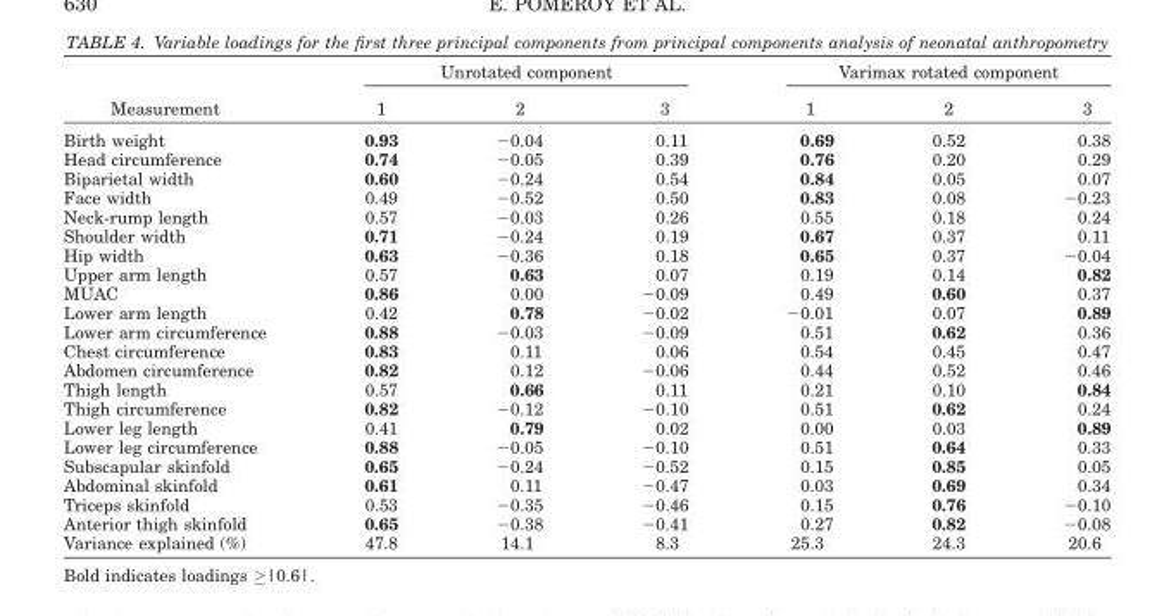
<table><thead><tr><td rowspan="2">Measurement</td><td colspan="3">Unrotated component</td><td colspan="3">Varimax rotated component</td></tr><tr><td>1</td><td>2</td><td>3</td><td>1</td><td>2</td><td>3</td></tr></thead><tbody><tr><td>Birth weight</td><td>0.93</td><td>−0.04</td><td>0.11</td><td>0.69</td><td>0.52</td><td>0.38</td></tr><tr><td>Head circumference</td><td>0.74</td><td>−0.05</td><td>0.39</td><td>0.76</td><td>0.20</td><td>0.29</td></tr><tr><td>Biparietal width</td><td>0.60</td><td>−0.24</td><td>0.54</td><td>0.84</td><td>0.05</td><td>0.07</td></tr><tr><td>Face width</td><td>0.49</td><td>−0.52</td><td>0.50</td><td>0.83</td><td>0.08</td><td>−0.23</td></tr><tr><td>Neck-rump length</td><td>0.57</td><td>−0.03</td><td>0.26</td><td>0.55</td><td>0.18</td><td>0.24</td></tr><tr><td>Shoulder width</td><td>0.71</td><td>−0.24</td><td>0.19</td><td>0.67</td><td>0.37</td><td>0.11</td></tr><tr><td>Hip width</td><td>0.63</td><td>−0.36</td><td>0.18</td><td>0.65</td><td>0.37</td><td>−0.04</td></tr><tr><td>Upper arm length</td><td>0.57</td><td>0.63</td><td>0.07</td><td>0.19</td><td>0.14</td><td>0.82</td></tr><tr><td>MUAC</td><td>0.86</td><td>0.00</td><td>−0.09</td><td>0.49</td><td>0.60</td><td>0.37</td></tr><tr><td>Lower arm length</td><td>0.42</td><td>0.78</td><td>−0.02</td><td>−0.01</td><td>0.07</td><td>0.89</td></tr><tr><td>Lower arm circumference</td><td>0.88</td><td>−0.03</td><td>−0.09</td><td>0.51</td><td>0.62</td><td>0.36</td></tr><tr><td>Chest circumference</td><td>0.83</td><td>0.11</td><td>0.06</td><td>0.54</td><td>0.45</td><td>0.47</td></tr><tr><td>Abdomen circumference</td><td>0.82</td><td>0.12</td><td>−0.06</td><td>0.44</td><td>0.52</td><td>0.46</td></tr><tr><td>Thigh length</td><td>0.57</td><td>0.66</td><td>0.11</td><td>0.21</td><td>0.10</td><td>0.84</td></tr><tr><td>Thigh circumference</td><td>0.82</td><td>−0.12</td><td>−0.10</td><td>0.51</td><td>0.62</td><td>0.24</td></tr><tr><td>Lower leg length</td><td>0.41</td><td>0.79</td><td>0.02</td><td>0.00</td><td>0.03</td><td>0.89</td></tr><tr><td>Lower leg circumference</td><td>0.88</td><td>−0.05</td><td>−0.10</td><td>0.51</td><td>0.64</td><td>0.33</td></tr><tr><td>Subscapular skinfold</td><td>0.65</td><td>−0.24</td><td>−0.52</td><td>0.15</td><td>0.85</td><td>0.05</td></tr><tr><td>Abdominal skinfold</td><td>0.61</td><td>0.11</td><td>−0.47</td><td>0.03</td><td>0.69</td><td>0.34</td></tr><tr><td>Triceps skinfold</td><td>0.53</td><td>−0.35</td><td>−0.46</td><td>0.15</td><td>0.76</td><td>−0.10</td></tr><tr><td>Anterior thigh skinfold</td><td>0.65</td><td>−0.38</td><td>−0.41</td><td>0.27</td><td>0.82</td><td>−0.08</td></tr><tr><td>Variance explained (%)</td><td>47.8</td><td>14.1</td><td>8.3</td><td>25.3</td><td>24.3</td><td>20.6</td></tr></tbody></table>